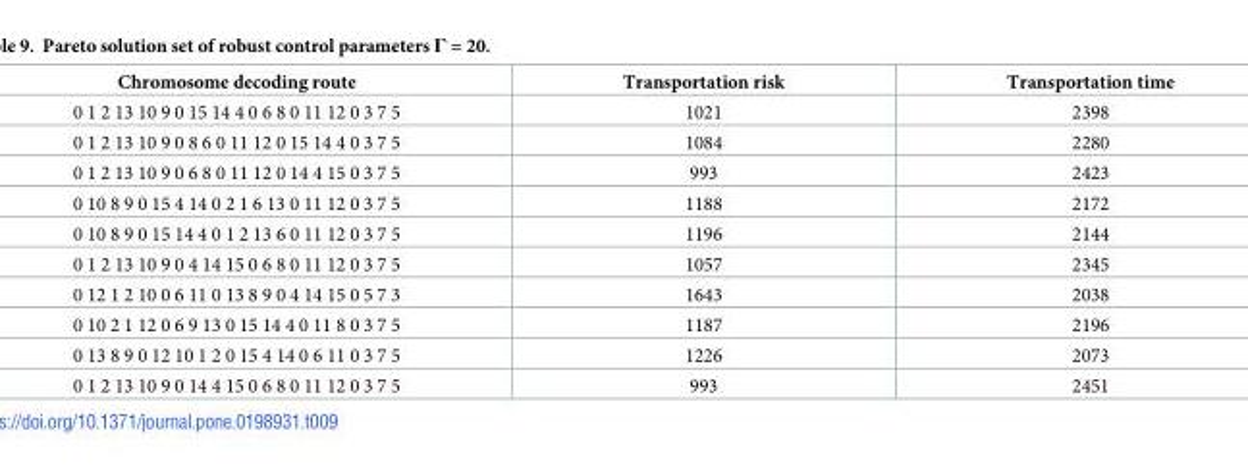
<table><thead><tr><td>Chromosome decoding route</td><td>Transportation risk</td><td>Transportation time</td></tr></thead><tbody><tr><td>0 1 2 13 10 9 0 15 14 4 0 6 8 0 11 12 0 3 7 5</td><td>1021</td><td>2398</td></tr><tr><td>0 1 2 13 10 9 0 8 6 0 11 12 0 15 14 4 0 3 7 5</td><td>1084</td><td>2280</td></tr><tr><td>0 1 2 13 10 9 0 6 8 0 11 12 0 14 4 15 0 3 7 5</td><td>993</td><td>2423</td></tr><tr><td>0 10 8 9 0 15 4 14 0 2 1 6 13 0 11 12 0 3 7 5</td><td>1188</td><td>2172</td></tr><tr><td>0 10 8 9 0 15 14 4 0 1 2 13 6 0 11 12 0 3 7 5</td><td>1196</td><td>2144</td></tr><tr><td>0 1 2 13 10 9 0 4 14 15 0 6 8 0 11 12 0 3 7 5</td><td>1057</td><td>2345</td></tr><tr><td>0 12 1 2 10 0 6 11 0 13 8 9 0 4 14 15 0 5 7 3</td><td>1643</td><td>2038</td></tr><tr><td>0 10 2 1 12 0 6 9 13 0 15 14 4 0 11 8 0 3 7 5</td><td>1187</td><td>2196</td></tr><tr><td>0 13 8 9 0 12 10 1 2 0 15 4 14 0 6 11 0 3 7 5</td><td>1226</td><td>2073</td></tr><tr><td>0 1 2 13 10 9 0 14 4 15 0 6 8 0 11 12 0 3 7 5</td><td>993</td><td>2451</td></tr></tbody></table>